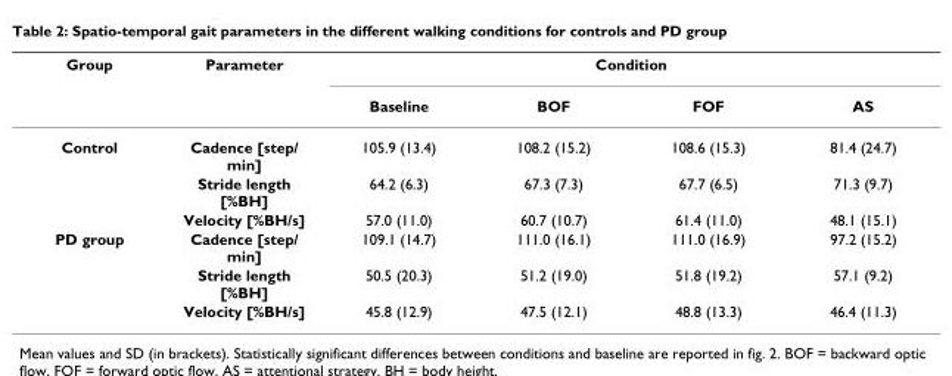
<table><thead><tr><td rowspan="2">Group</td><td rowspan="2">Parameter</td><td colspan="4">Condition</td></tr><tr><td>Baseline</td><td>BOF</td><td>FOF</td><td>AS</td></tr></thead><tbody><tr><td rowspan="3">Control</td><td>Cadence [step/ min]</td><td>105.9 (13.4)</td><td>108.2 (15.2)</td><td>108.6 (15.3)</td><td>81.4 (24.7)</td></tr><tr><td>Stride length [%BH]</td><td>64.2 (6.3)</td><td>67.3 (7.3)</td><td>67.7 (6.5)</td><td>71.3 (9.7)</td></tr><tr><td>Velocity [%BH/s]</td><td>57.0 (11.0)</td><td>60.7 (10.7)</td><td>61.4 (11.0)</td><td>48.1 (15.1)</td></tr><tr><td rowspan="3">PD group</td><td>Cadence [step/ min]</td><td>109.1 (14.7)</td><td>111.0 (16.1)</td><td>111.0 (16.9)</td><td>97.2 (15.2)</td></tr><tr><td>Stride length [%BH]</td><td>50.5 (20.3)</td><td>51.2 (19.0)</td><td>51.8 (19.2)</td><td>57.1 (9.2)</td></tr><tr><td>Velocity [%BH/s]</td><td>45.8 (12.9)</td><td>47.5 (12.1)</td><td>48.8 (13.3)</td><td>46.4 (11.3)</td></tr></tbody></table>